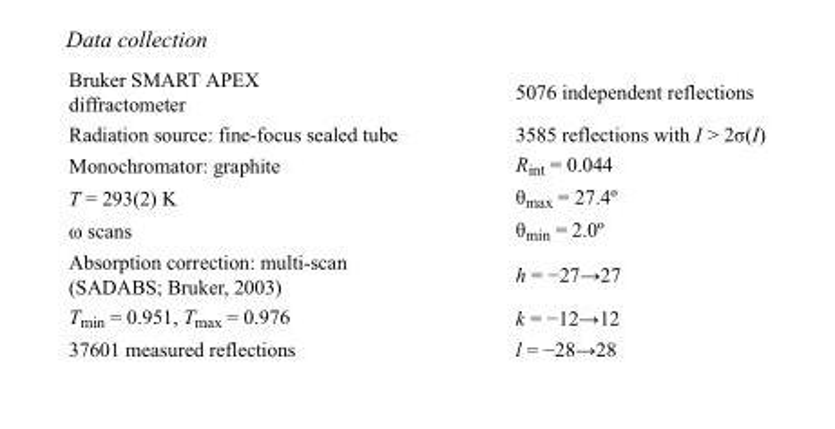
<table><tbody><tr><td>Bruker SMART APEX diffractometer</td><td>5076 independent reflections</td></tr><tr><td>Radiation source: fine-focus sealed tube</td><td>3585 reflections with I &gt; 2σ(I)</td></tr><tr><td>Monochromator: graphite</td><td>R<sub>int</sub> = 0.044</td></tr><tr><td>T = 293(2) K</td><td>θ<sub>max</sub> = 27.4º</td></tr><tr><td>ω scans</td><td>θ<sub>min</sub> = 2.0º</td></tr><tr><td>Absorption correction: multi-scan (SADABS; Bruker, 2003)</td><td>h = −27→27</td></tr><tr><td>T<sub>min</sub> = 0.951, T<sub>max</sub> = 0.976</td><td>k = −12→12</td></tr><tr><td>37601 measured reflections</td><td>l = −28→28</td></tr></tbody></table>